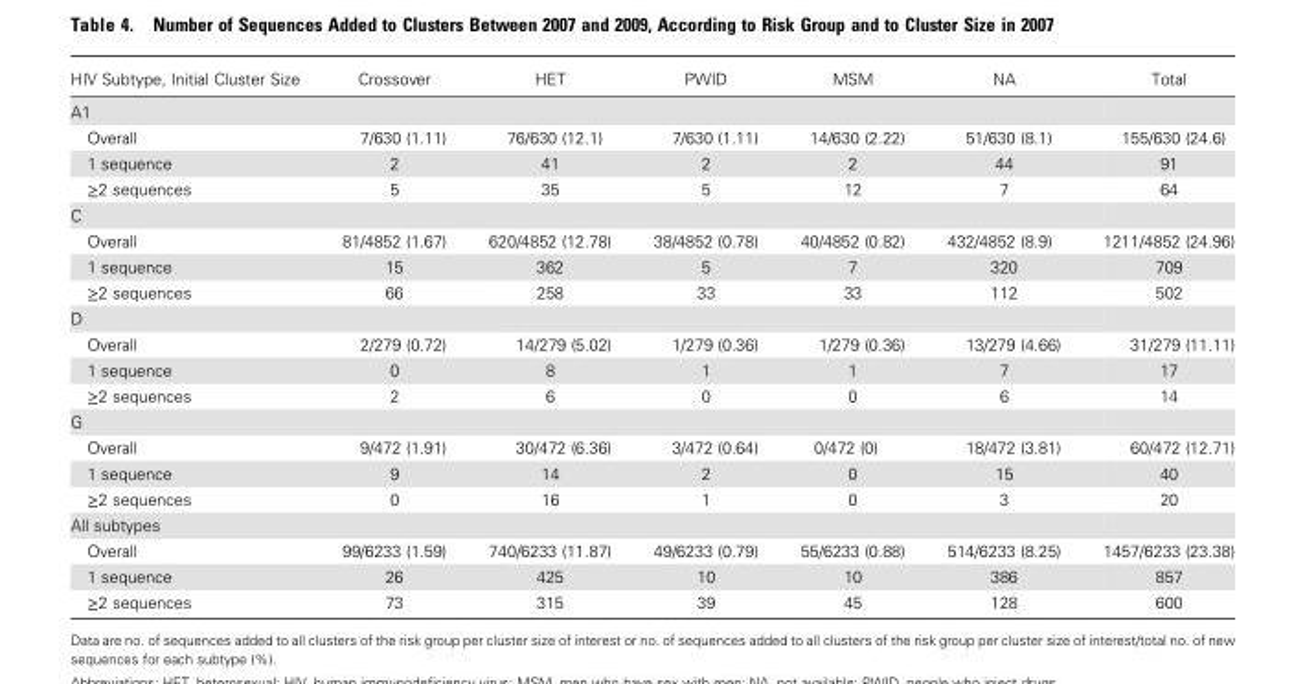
<table><thead><tr><td>HIV Subtype, Initial Cluster Size</td><td>Crossover</td><td>HET</td><td>PWID</td><td>MSM</td><td>NA</td><td>Total</td></tr></thead><tbody><tr><td colspan="7">A1</td></tr><tr><td>Overall</td><td>7/630 (1.11)</td><td>76/630 (12.1)</td><td>7/630 (1.11)</td><td>14/630 (2.22)</td><td>51/630 (8.1)</td><td>155/630 (24.6)</td></tr><tr><td>1 sequence</td><td>2</td><td>41</td><td>2</td><td>2</td><td>44</td><td>91</td></tr><tr><td>≥2 sequences</td><td>5</td><td>35</td><td>5</td><td>12</td><td>7</td><td>64</td></tr><tr><td colspan="7">C</td></tr><tr><td>Overall</td><td>81/4852 (1.67)</td><td>620/4852 (12.78)</td><td>38/4852 (0.78)</td><td>40/4852 (0.82)</td><td>432/4852 (8.9)</td><td>1211/4852 (24.96)</td></tr><tr><td>1 sequence</td><td>15</td><td>362</td><td>5</td><td>7</td><td>320</td><td>709</td></tr><tr><td>≥2 sequences</td><td>66</td><td>258</td><td>33</td><td>33</td><td>112</td><td>502</td></tr><tr><td colspan="7">D</td></tr><tr><td>Overall</td><td>2/279 (0.72)</td><td>14/279 (5.02)</td><td>1/279 (0.36)</td><td>1/279 (0.36)</td><td>13/279 (4.66)</td><td>31/279 (11.11)</td></tr><tr><td>1 sequence</td><td>0</td><td>8</td><td>1</td><td>1</td><td>7</td><td>17</td></tr><tr><td>≥2 sequences</td><td>2</td><td>6</td><td>0</td><td>0</td><td>6</td><td>14</td></tr><tr><td colspan="7">G</td></tr><tr><td>Overall</td><td>9/472 (1.91)</td><td>30/472 (6.36)</td><td>3/472 (0.64)</td><td>0/472 (0)</td><td>18/472 (3.81)</td><td>60/472 (12.71)</td></tr><tr><td>1 sequence</td><td>9</td><td>14</td><td>2</td><td>0</td><td>15</td><td>40</td></tr><tr><td>≥2 sequences</td><td>0</td><td>16</td><td>1</td><td>0</td><td>3</td><td>20</td></tr><tr><td colspan="7">All subtypes</td></tr><tr><td>Overall</td><td>99/6233 (1.59)</td><td>740/6233 (11.87)</td><td>49/6233 (0.79)</td><td>55/6233 (0.88)</td><td>514/6233 (8.25)</td><td>1457/6233 (23.38)</td></tr><tr><td>1 sequence</td><td>26</td><td>425</td><td>10</td><td>10</td><td>386</td><td>857</td></tr><tr><td>≥2 sequences</td><td>73</td><td>315</td><td>39</td><td>45</td><td>128</td><td>600</td></tr></tbody></table>